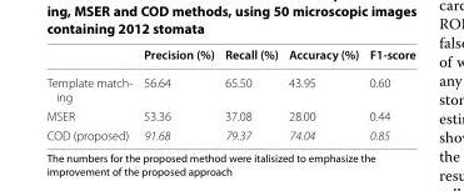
<table><thead><tr><td></td><td>Precision (%)</td><td>Recall (%)</td><td>Accuracy (%)</td><td>F1-score</td></tr></thead><tbody><tr><td>Template match- ing</td><td>56.64</td><td>65.50</td><td>43.95</td><td>0.60</td></tr><tr><td>MSER</td><td>53.36</td><td>37.08</td><td>28.00</td><td>0.44</td></tr><tr><td>COD (proposed)</td><td>91.68</td><td>79.37</td><td>74.04</td><td>0.85</td></tr></tbody></table>